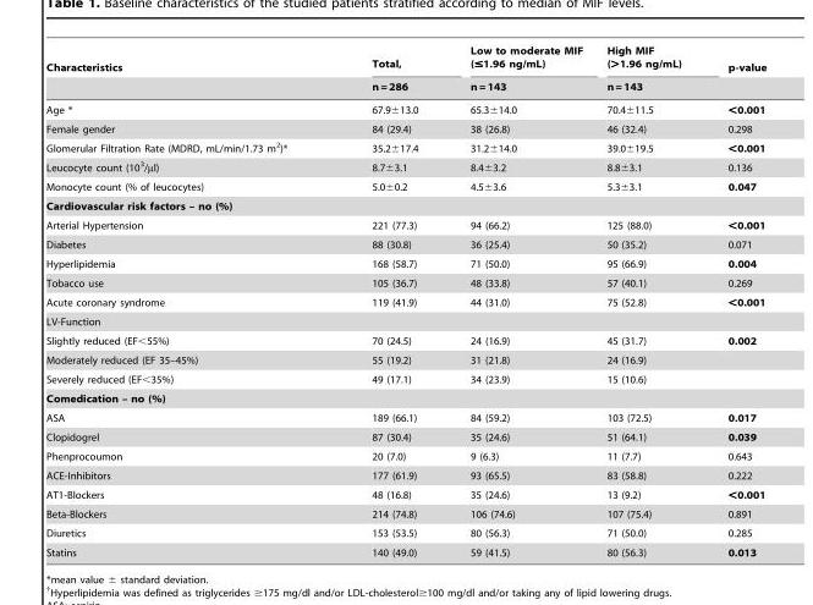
<table><thead><tr><td rowspan="2">Characteristics</td><td rowspan="2">Total, n = 286</td><td rowspan="2">Low to moderate MIF (≤1.96 ng/mL) n = 143</td><td rowspan="2">High MIF (&gt;1.96 ng/mL) n = 143</td><td rowspan="2">p-value</td></tr><tr></tr></thead><tbody><tr><td>Age *</td><td>67.9±13.0</td><td>65.3±14.0</td><td>70.4±11.5</td><td>&lt;0.001</td></tr><tr><td>Female gender</td><td>84 (29.4)</td><td>38 (26.8)</td><td>46 (32.4)</td><td>0.298</td></tr><tr><td>Glomerular Filtration Rate (MDRD, mL/min/1.73 m<sup>2</sup>)*</td><td>35.2±17.4</td><td>31.2±14.0</td><td>39.0±19.5</td><td>&lt;0.001</td></tr><tr><td>Leucocyte count (10<sup>3</sup>/µl)</td><td>8.7±3.1</td><td>8.4±3.2</td><td>8.8±3.1</td><td>0.136</td></tr><tr><td>Monocyte count (% of leucocytes)</td><td>5.0±0.2</td><td>4.5±3.6</td><td>5.3±3.1</td><td>0.047</td></tr><tr><td colspan="5">Cardiovascular risk factors – no (%)</td></tr><tr><td>Arterial Hypertension</td><td>221 (77.3)</td><td>94 (66.2)</td><td>125 (88.0)</td><td>&lt;0.001</td></tr><tr><td>Diabetes</td><td>88 (30.8)</td><td>36 (25.4)</td><td>50 (35.2)</td><td>0.071</td></tr><tr><td>Hyperlipidemia</td><td>168 (58.7)</td><td>71 (50.0)</td><td>95 (66.9)</td><td>0.004</td></tr><tr><td>Tobacco use</td><td>105 (36.7)</td><td>48 (33.8)</td><td>57 (40.1)</td><td>0.269</td></tr><tr><td>Acute coronary syndrome</td><td>119 (41.9)</td><td>44 (31.0)</td><td>75 (52.8)</td><td>&lt;0.001</td></tr><tr><td colspan="5">LV-Function</td></tr><tr><td>Slightly reduced (EF&lt;55%)</td><td>70 (24.5)</td><td>24 (16.9)</td><td>45 (31.7)</td><td>0.002</td></tr><tr><td>Moderately reduced (EF 35–45%)</td><td>55 (19.2)</td><td>31 (21.8)</td><td>24 (16.9)</td><td></td></tr><tr><td>Severely reduced (EF&lt;35%)</td><td>49 (17.1)</td><td>34 (23.9)</td><td>15 (10.6)</td><td></td></tr><tr><td colspan="5">Comedication – no (%)</td></tr><tr><td>ASA</td><td>189 (66.1)</td><td>84 (59.2)</td><td>103 (72.5)</td><td>0.017</td></tr><tr><td>Clopidogrel</td><td>87 (30.4)</td><td>35 (24.6)</td><td>51 (64.1)</td><td>0.039</td></tr><tr><td>Phenprocoumon</td><td>20 (7.0)</td><td>9 (6.3)</td><td>11 (7.7)</td><td>0.643</td></tr><tr><td>ACE-Inhibitors</td><td>177 (61.9)</td><td>93 (65.5)</td><td>83 (58.8)</td><td>0.222</td></tr><tr><td>AT1-Blockers</td><td>48 (16.8)</td><td>35 (24.6)</td><td>13 (9.2)</td><td>&lt;0.001</td></tr><tr><td>Beta-Blockers</td><td>214 (74.8)</td><td>106 (74.6)</td><td>107 (75.4)</td><td>0.891</td></tr><tr><td>Diuretics</td><td>153 (53.5)</td><td>80 (56.3)</td><td>71 (50.0)</td><td>0.285</td></tr><tr><td>Statins</td><td>140 (49.0)</td><td>59 (41.5)</td><td>80 (56.3)</td><td>0.013</td></tr></tbody></table>